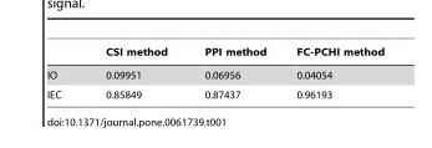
<table><thead><tr><td></td><td>CSI method</td><td>PPI method</td><td>FC-PCHI method</td></tr></thead><tbody><tr><td>IO</td><td>0.09951</td><td>0.06956</td><td>0.04054</td></tr><tr><td>IEC</td><td>0.85849</td><td>0.87437</td><td>0.96193</td></tr></tbody></table>